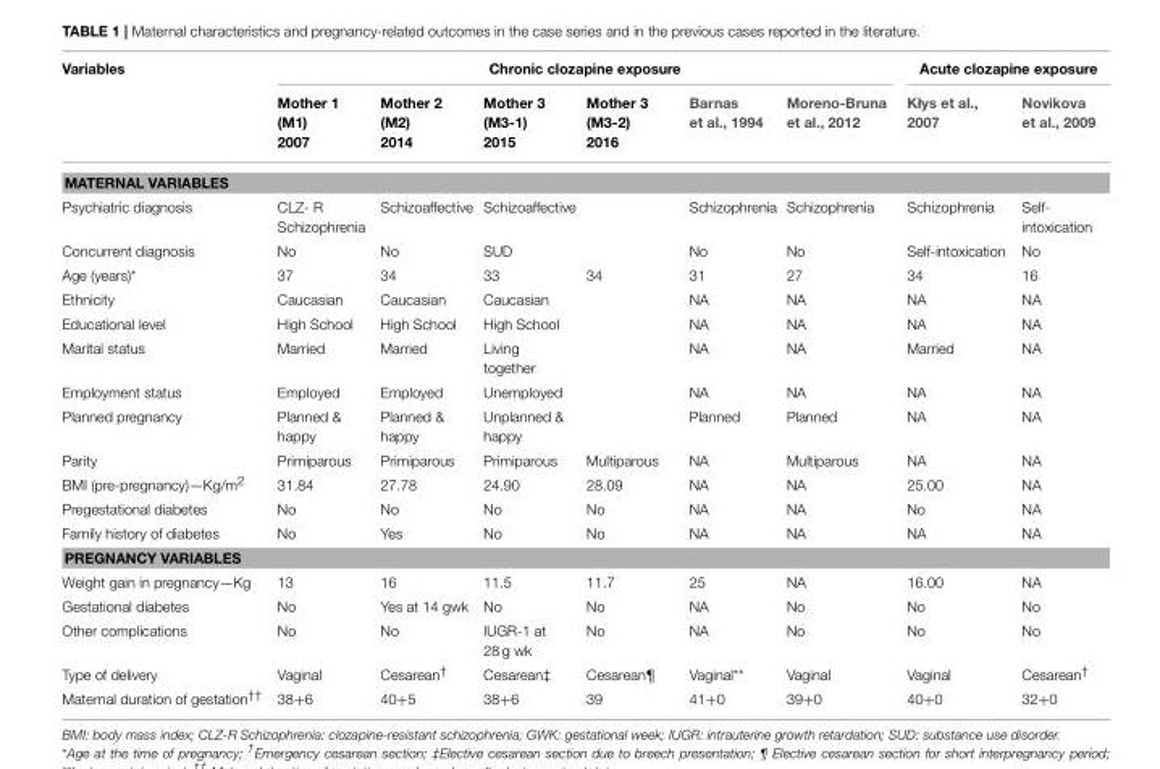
<table><thead><tr><td rowspan="2">Variables</td><td colspan="6">Chronic clozapine exposure</td><td colspan="2">Acute clozapine exposure</td></tr><tr><td>Mother 1 (M1) 2007</td><td>Mother 2 (M2) 2014</td><td>Mother 3 (M3-1) 2015</td><td>Mother 3 (M3-2) 2016</td><td>Barnas et al., 1994</td><td>Moreno-Bruna et al., 2012</td><td>Kłys et al., 2007</td><td>Novikova et al., 2009</td></tr></thead><tbody><tr><td colspan="9">MATERNAL VARIABLES</td></tr><tr><td>Psychiatric diagnosis</td><td>CLZ- R Schizophrenia</td><td>Schizoaffective</td><td>Schizoaffective</td><td></td><td>Schizophrenia</td><td>Schizophrenia</td><td>Schizophrenia</td><td>Self- intoxication</td></tr><tr><td>Concurrent diagnosis</td><td>No</td><td>No</td><td>SUD</td><td></td><td>No</td><td>No</td><td>Self-intoxication</td><td>No</td></tr><tr><td>Age (years)*</td><td>37</td><td>34</td><td>33</td><td>34</td><td>31</td><td>27</td><td>34</td><td>16</td></tr><tr><td>Ethnicity</td><td>Caucasian</td><td>Caucasian</td><td>Caucasian</td><td></td><td>NA</td><td>NA</td><td>NA</td><td>NA</td></tr><tr><td>Educational level</td><td>High School</td><td>High School</td><td>High School</td><td></td><td>NA</td><td>NA</td><td>NA</td><td>NA</td></tr><tr><td>Marital status</td><td>Married</td><td>Married</td><td>Living together</td><td></td><td>NA</td><td>NA</td><td>Married</td><td>NA</td></tr><tr><td>Employment status</td><td>Employed</td><td>Employed</td><td>Unemployed</td><td></td><td>NA</td><td>NA</td><td>NA</td><td>NA</td></tr><tr><td>Planned pregnancy</td><td>Planned &amp; happy</td><td>Planned &amp; happy</td><td>Unplanned &amp; happy</td><td></td><td>Planned</td><td>Planned</td><td>NA</td><td>NA</td></tr><tr><td>Parity</td><td>Primiparous</td><td>Primiparous</td><td>Primiparous</td><td>Multiparous</td><td>NA</td><td>Multiparous</td><td>NA</td><td>NA</td></tr><tr><td>BMI (pre-pregnancy)—Kg/m<sup>2</sup></td><td>31.84</td><td>27.78</td><td>24.90</td><td>28.09</td><td>NA</td><td>NA</td><td>25.00</td><td>NA</td></tr><tr><td>Pregestational diabetes</td><td>No</td><td>No</td><td>No</td><td>No</td><td>NA</td><td>NA</td><td>No</td><td>NA</td></tr><tr><td>Family history of diabetes</td><td>No</td><td>Yes</td><td>No</td><td>No</td><td>NA</td><td>NA</td><td>NA</td><td>NA</td></tr><tr><td colspan="9">PREGNANCY VARIABLES</td></tr><tr><td>Weight gain in pregnancy—Kg</td><td>13</td><td>16</td><td>11.5</td><td>11.7</td><td>25</td><td>NA</td><td>16.00</td><td>NA</td></tr><tr><td>Gestational diabetes</td><td>No</td><td>Yes at 14 gwk</td><td>No</td><td>No</td><td>NA</td><td>No</td><td>No</td><td>No</td></tr><tr><td>Other complications</td><td>No</td><td>No</td><td>IUGR-1 at 28 g wk</td><td>No</td><td>NA</td><td>No</td><td>No</td><td>No</td></tr><tr><td>Type of delivery</td><td>Vaginal</td><td>Cesarean<sup>†</sup></td><td>Cesarean<sup>‡</sup></td><td>Cesarean<sup>¶</sup></td><td>Vaginal**</td><td>Vaginal</td><td>Vaginal</td><td>Cesarean<sup>†</sup></td></tr><tr><td>Maternal duration of gestation<sup>††</sup></td><td>38+6</td><td>40+5</td><td>38+6</td><td>39</td><td>41+0</td><td>39+0</td><td>40+0</td><td>32+0</td></tr></tbody></table>